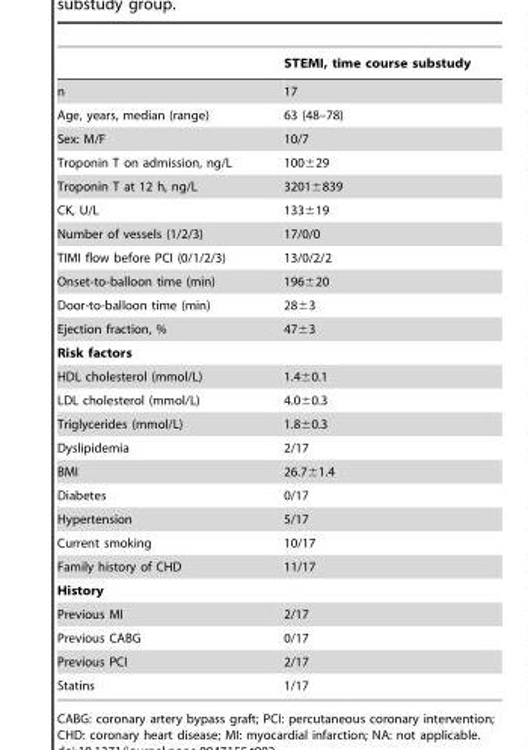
<table><thead><tr><td></td><td>STEMI, time course substudy</td></tr></thead><tbody><tr><td>n</td><td>17</td></tr><tr><td>Age, years, median (range)</td><td>63 (48–78)</td></tr><tr><td>Sex: M/F</td><td>10/7</td></tr><tr><td>Troponin T on admission, ng/L</td><td>100±29</td></tr><tr><td>Troponin T at 12 h, ng/L</td><td>3201±839</td></tr><tr><td>CK, U/L</td><td>133±19</td></tr><tr><td>Number of vessels (1/2/3)</td><td>17/0/0</td></tr><tr><td>TIMI flow before PCI (0/1/2/3)</td><td>13/0/2/2</td></tr><tr><td>Onset-to-balloon time (min)</td><td>196±20</td></tr><tr><td>Door-to-balloon time (min)</td><td>28±3</td></tr><tr><td>Ejection fraction, %</td><td>47±3</td></tr><tr><td colspan="2">Risk factors</td></tr><tr><td>HDL cholesterol (mmol/L)</td><td>1.4±0.1</td></tr><tr><td>LDL cholesterol (mmol/L)</td><td>4.0±0.3</td></tr><tr><td>Triglycerides (mmol/L)</td><td>1.8±0.3</td></tr><tr><td>Dyslipidemia</td><td>2/17</td></tr><tr><td>BMI</td><td>26.7±1.4</td></tr><tr><td>Diabetes</td><td>0/17</td></tr><tr><td>Hypertension</td><td>5/17</td></tr><tr><td>Current smoking</td><td>10/17</td></tr><tr><td>Family history of CHD</td><td>11/17</td></tr><tr><td colspan="2">History</td></tr><tr><td>Previous MI</td><td>2/17</td></tr><tr><td>Previous CABG</td><td>0/17</td></tr><tr><td>Previous PCI</td><td>2/17</td></tr><tr><td>Statins</td><td>1/17</td></tr></tbody></table>